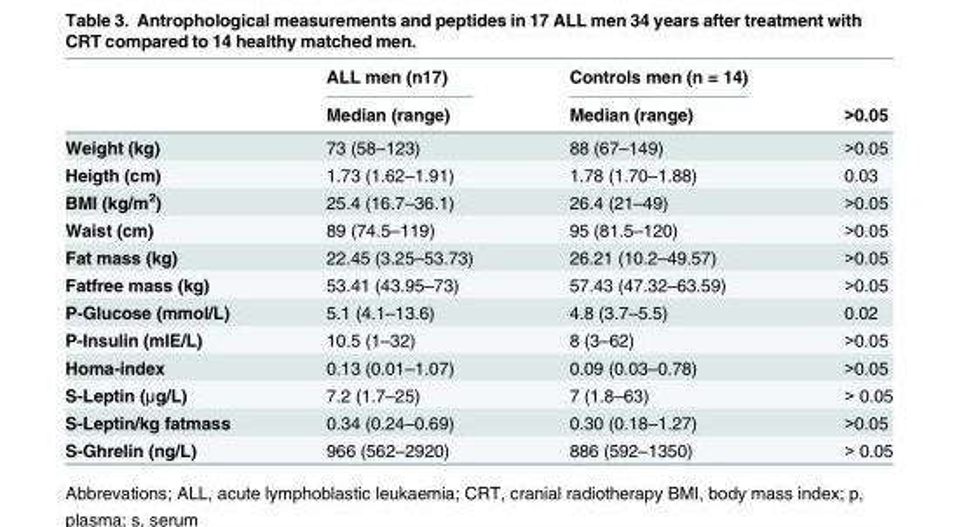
<table><thead><tr><td rowspan="2"></td><td rowspan="2">ALL men (n17) Median (range)</td><td rowspan="2">Controls men (n = 14) Median (range)</td><td rowspan="2">&gt;0.05</td></tr><tr></tr></thead><tbody><tr><td>Weight (kg)</td><td>73 (58–123)</td><td>88 (67–149)</td><td>&gt;0.05</td></tr><tr><td>Heigth (cm)</td><td>1.73 (1.62–1.91)</td><td>1.78 (1.70–1.88)</td><td>0.03</td></tr><tr><td>BMI (kg/m<sup>2</sup>)</td><td>25.4 (16.7–36.1)</td><td>26.4 (21–49)</td><td>&gt;0.05</td></tr><tr><td>Waist (cm)</td><td>89 (74.5–119)</td><td>95 (81.5–120)</td><td>&gt;0.05</td></tr><tr><td>Fat mass (kg)</td><td>22.45 (3.25–53.73)</td><td>26.21 (10.2–49.57)</td><td>&gt;0.05</td></tr><tr><td>Fatfree mass (kg)</td><td>53.41 (43.95–73)</td><td>57.43 (47.32–63.59)</td><td>&gt;0.05</td></tr><tr><td>P-Glucose (mmol/L)</td><td>5.1 (4.1–13.6)</td><td>4.8 (3.7–5.5)</td><td>0.02</td></tr><tr><td>P-Insulin (mIE/L)</td><td>10.5 (1–32)</td><td>8 (3–62)</td><td>&gt;0.05</td></tr><tr><td>Homa-index</td><td>0.13 (0.01–1.07)</td><td>0.09 (0.03–0.78)</td><td>&gt;0.05</td></tr><tr><td>S-Leptin (μg/L)</td><td>7.2 (1.7–25)</td><td>7 (1.8–63)</td><td>&gt; 0.05</td></tr><tr><td>S-Leptin/kg fatmass</td><td>0.34 (0.24–0.69)</td><td>0.30 (0.18–1.27)</td><td>&gt;0.05</td></tr><tr><td>S-Ghrelin (ng/L)</td><td>966 (562–2920)</td><td>886 (592–1350)</td><td>&gt; 0.05</td></tr></tbody></table>